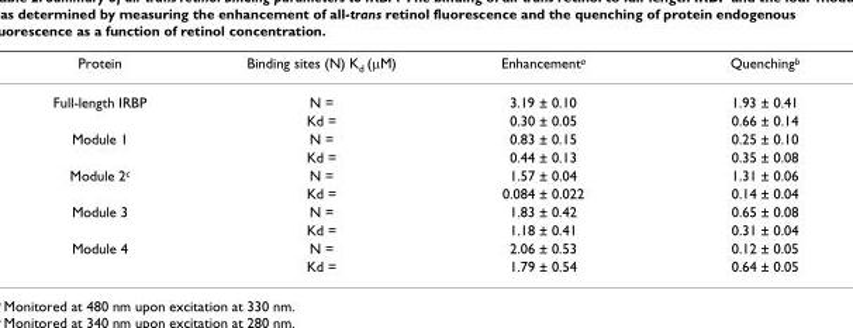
<table><thead><tr><td>Protein</td><td>Binding sites (N) K<sub>d</sub> (µM)</td><td>Enhancement<sup>a</sup></td><td>Quenching<sup>b</sup></td></tr></thead><tbody><tr><td rowspan="2">Full-length IRBP</td><td>N =</td><td>3.19 ± 0.10</td><td>1.93 ± 0.41</td></tr><tr><td>Kd =</td><td>0.30 ± 0.05</td><td>0.66 ± 0.14</td></tr><tr><td rowspan="2">Module 1</td><td>N =</td><td>0.83 ± 0.15</td><td>0.25 ± 0.10</td></tr><tr><td>Kd =</td><td>0.44 ± 0.13</td><td>0.35 ± 0.08</td></tr><tr><td rowspan="2">Module 2<sup>c</sup></td><td>N =</td><td>1.57 ± 0.04</td><td>1.31 ± 0.06</td></tr><tr><td>Kd =</td><td>0.084 ± 0.022</td><td>0.14 ± 0.04</td></tr><tr><td rowspan="2">Module 3</td><td>N =</td><td>1.83 ± 0.42</td><td>0.65 ± 0.08</td></tr><tr><td>Kd =</td><td>1.18 ± 0.41</td><td>0.31 ± 0.04</td></tr><tr><td rowspan="2">Module 4</td><td>N =</td><td>2.06 ± 0.53</td><td>0.12 ± 0.05</td></tr><tr><td>Kd =</td><td>1.79 ± 0.54</td><td>0.64 ± 0.05</td></tr></tbody></table>